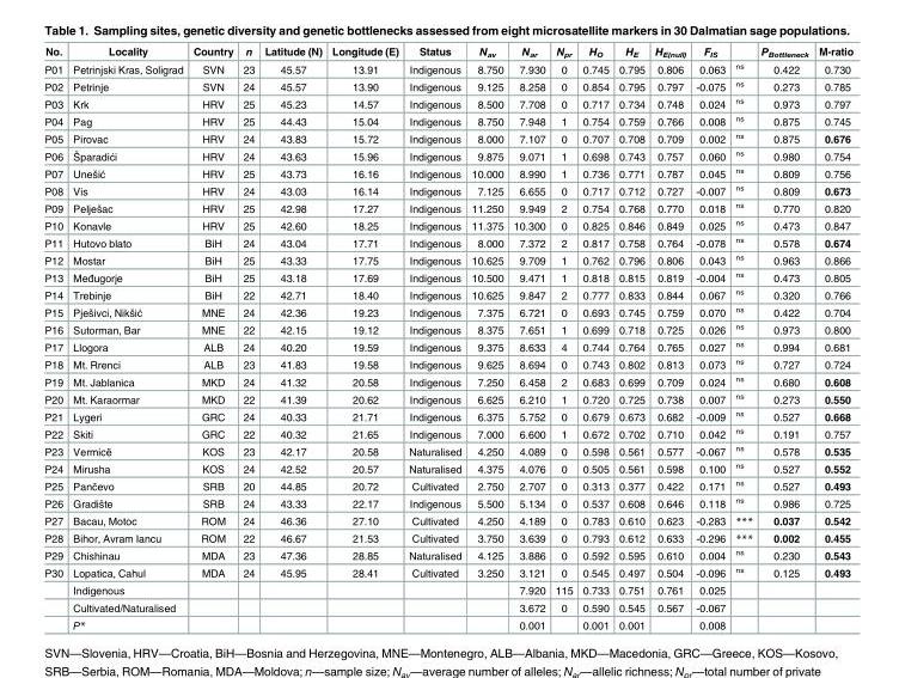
<table><thead><tr><td>No.</td><td>Locality</td><td>Country</td><td>n</td><td>Latitude (N)</td><td>Longitude (E)</td><td>Status</td><td>N<sub>av</sub></td><td>N<sub>ar</sub></td><td>N<sub>pr</sub></td><td>H<sub>O</sub></td><td>H<sub>E</sub></td><td>H<sub>E(null)</sub></td><td>F<sub>IS</sub></td><td></td><td>P<sub>Bottleneck</sub></td><td>M-ratio</td></tr></thead><tbody><tr><td>P01</td><td>Petrinjski Kras, Soligrad</td><td>SVN</td><td>23</td><td>45.57</td><td>13.91</td><td>Indigenous</td><td>8.750</td><td>7.930</td><td>0</td><td>0.745</td><td>0.795</td><td>0.806</td><td>0.063</td><td><sup>ns</sup></td><td>0.422</td><td>0.730</td></tr><tr><td>P02</td><td>Petrinje</td><td>SVN</td><td>24</td><td>45.57</td><td>13.90</td><td>Indigenous</td><td>9.125</td><td>8.258</td><td>0</td><td>0.854</td><td>0.795</td><td>0.797</td><td>-0.075</td><td><sup>ns</sup></td><td>0.273</td><td>0.785</td></tr><tr><td>P03</td><td>Krk</td><td>HRV</td><td>25</td><td>45.23</td><td>14.57</td><td>Indigenous</td><td>8.500</td><td>7.708</td><td>0</td><td>0.717</td><td>0.734</td><td>0.748</td><td>0.024</td><td><sup>ns</sup></td><td>0.973</td><td>0.797</td></tr><tr><td>P04</td><td>Pag</td><td>HRV</td><td>25</td><td>44.43</td><td>15.04</td><td>Indigenous</td><td>8.750</td><td>7.948</td><td>1</td><td>0.754</td><td>0.759</td><td>0.766</td><td>0.008</td><td><sup>ns</sup></td><td>0.875</td><td>0.745</td></tr><tr><td>P05</td><td>Pirovac</td><td>HRV</td><td>24</td><td>43.83</td><td>15.72</td><td>Indigenous</td><td>8.000</td><td>7.107</td><td>0</td><td>0.707</td><td>0.708</td><td>0.709</td><td>0.002</td><td><sup>ns</sup></td><td>0.875</td><td>0.676</td></tr><tr><td>P06</td><td>Šparadići</td><td>HRV</td><td>24</td><td>43.63</td><td>15.96</td><td>Indigenous</td><td>9.875</td><td>9.071</td><td>1</td><td>0.698</td><td>0.743</td><td>0.757</td><td>0.060</td><td><sup>ns</sup></td><td>0.980</td><td>0.754</td></tr><tr><td>P07</td><td>Unešić</td><td>HRV</td><td>25</td><td>43.73</td><td>16.16</td><td>Indigenous</td><td>10.000</td><td>8.990</td><td>1</td><td>0.736</td><td>0.771</td><td>0.787</td><td>0.045</td><td><sup>ns</sup></td><td>0.809</td><td>0.756</td></tr><tr><td>P08</td><td>Vis</td><td>HRV</td><td>24</td><td>43.03</td><td>16.14</td><td>Indigenous</td><td>7.125</td><td>6.655</td><td>0</td><td>0.717</td><td>0.712</td><td>0.727</td><td>-0.007</td><td><sup>ns</sup></td><td>0.809</td><td>0.673</td></tr><tr><td>P09</td><td>Pelješac</td><td>HRV</td><td>25</td><td>42.98</td><td>17.27</td><td>Indigenous</td><td>11.250</td><td>9.949</td><td>2</td><td>0.754</td><td>0.768</td><td>0.770</td><td>0.018</td><td><sup>ns</sup></td><td>0.770</td><td>0.820</td></tr><tr><td>P10</td><td>Konavle</td><td>HRV</td><td>25</td><td>42.60</td><td>18.25</td><td>Indigenous</td><td>11.375</td><td>10.300</td><td>0</td><td>0.825</td><td>0.846</td><td>0.849</td><td>0.025</td><td><sup>ns</sup></td><td>0.473</td><td>0.847</td></tr><tr><td>P11</td><td>Hutovo blato</td><td>BiH</td><td>24</td><td>43.04</td><td>17.71</td><td>Indigenous</td><td>8.000</td><td>7.372</td><td>2</td><td>0.817</td><td>0.758</td><td>0.764</td><td>-0.078</td><td><sup>ns</sup></td><td>0.578</td><td>0.674</td></tr><tr><td>P12</td><td>Mostar</td><td>BiH</td><td>25</td><td>43.33</td><td>17.75</td><td>Indigenous</td><td>10.625</td><td>9.709</td><td>1</td><td>0.762</td><td>0.796</td><td>0.806</td><td>0.043</td><td><sup>ns</sup></td><td>0.963</td><td>0.866</td></tr><tr><td>P13</td><td>Međugorje</td><td>BiH</td><td>25</td><td>43.18</td><td>17.69</td><td>Indigenous</td><td>10.500</td><td>9.471</td><td>1</td><td>0.818</td><td>0.815</td><td>0.819</td><td>-0.004</td><td><sup>ns</sup></td><td>0.473</td><td>0.805</td></tr><tr><td>P14</td><td>Trebinje</td><td>BiH</td><td>22</td><td>42.71</td><td>18.40</td><td>Indigenous</td><td>10.625</td><td>9.847</td><td>2</td><td>0.777</td><td>0.833</td><td>0.844</td><td>0.067</td><td><sup>ns</sup></td><td>0.320</td><td>0.766</td></tr><tr><td>P15</td><td>Pješivci, Nikšić</td><td>MNE</td><td>24</td><td>42.36</td><td>19.23</td><td>Indigenous</td><td>7.375</td><td>6.721</td><td>0</td><td>0.693</td><td>0.745</td><td>0.759</td><td>0.070</td><td><sup>ns</sup></td><td>0.422</td><td>0.704</td></tr><tr><td>P16</td><td>Sutorman, Bar</td><td>MNE</td><td>22</td><td>42.15</td><td>19.12</td><td>Indigenous</td><td>8.375</td><td>7.651</td><td>1</td><td>0.699</td><td>0.718</td><td>0.725</td><td>0.026</td><td><sup>ns</sup></td><td>0.973</td><td>0.800</td></tr><tr><td>P17</td><td>Llogora</td><td>ALB</td><td>24</td><td>40.20</td><td>19.59</td><td>Indigenous</td><td>9.375</td><td>8.633</td><td>4</td><td>0.744</td><td>0.764</td><td>0.765</td><td>0.027</td><td><sup>ns</sup></td><td>0.994</td><td>0.681</td></tr><tr><td>P18</td><td>Mt. Rrenci</td><td>ALB</td><td>23</td><td>41.83</td><td>19.58</td><td>Indigenous</td><td>9.625</td><td>8.694</td><td>0</td><td>0.743</td><td>0.802</td><td>0.813</td><td>0.073</td><td><sup>ns</sup></td><td>0.727</td><td>0.724</td></tr><tr><td>P19</td><td>Mt. Jablanica</td><td>MKD</td><td>24</td><td>41.32</td><td>20.58</td><td>Indigenous</td><td>7.250</td><td>6.458</td><td>2</td><td>0.683</td><td>0.699</td><td>0.709</td><td>0.024</td><td><sup>ns</sup></td><td>0.680</td><td>0.608</td></tr><tr><td>P20</td><td>Mt. Karaormar</td><td>MKD</td><td>22</td><td>41.39</td><td>20.62</td><td>Indigenous</td><td>6.625</td><td>6.210</td><td>1</td><td>0.720</td><td>0.725</td><td>0.738</td><td>0.007</td><td><sup>ns</sup></td><td>0.273</td><td>0.550</td></tr><tr><td>P21</td><td>Lygeri</td><td>GRC</td><td>24</td><td>40.33</td><td>21.71</td><td>Indigenous</td><td>6.375</td><td>5.752</td><td>0</td><td>0.679</td><td>0.673</td><td>0.682</td><td>-0.009</td><td><sup>ns</sup></td><td>0.527</td><td>0.668</td></tr><tr><td>P22</td><td>Skiti</td><td>GRC</td><td>22</td><td>40.32</td><td>21.65</td><td>Indigenous</td><td>7.000</td><td>6.600</td><td>1</td><td>0.672</td><td>0.702</td><td>0.710</td><td>0.042</td><td><sup>ns</sup></td><td>0.191</td><td>0.757</td></tr><tr><td>P23</td><td>Vermicë</td><td>KOS</td><td>23</td><td>42.17</td><td>20.58</td><td>Naturalised</td><td>4.250</td><td>4.089</td><td>0</td><td>0.598</td><td>0.561</td><td>0.577</td><td>-0.067</td><td><sup>ns</sup></td><td>0.578</td><td>0.535</td></tr><tr><td>P24</td><td>Mirusha</td><td>KOS</td><td>24</td><td>42.52</td><td>20.57</td><td>Naturalised</td><td>4.375</td><td>4.076</td><td>0</td><td>0.505</td><td>0.561</td><td>0.598</td><td>0.100</td><td><sup>ns</sup></td><td>0.527</td><td>0.552</td></tr><tr><td>P25</td><td>Pančevo</td><td>SRB</td><td>20</td><td>44.85</td><td>20.72</td><td>Cultivated</td><td>2.750</td><td>2.707</td><td>0</td><td>0.313</td><td>0.377</td><td>0.422</td><td>0.171</td><td><sup>ns</sup></td><td>0.527</td><td>0.493</td></tr><tr><td>P26</td><td>Gradište</td><td>SRB</td><td>24</td><td>43.33</td><td>22.17</td><td>Indigenous</td><td>5.500</td><td>5.134</td><td>0</td><td>0.537</td><td>0.608</td><td>0.646</td><td>0.118</td><td><sup>ns</sup></td><td>0.986</td><td>0.725</td></tr><tr><td>P27</td><td>Bacau, Motoc</td><td>ROM</td><td>24</td><td>46.36</td><td>27.10</td><td>Cultivated</td><td>4.250</td><td>4.189</td><td>0</td><td>0.783</td><td>0.610</td><td>0.623</td><td>-0.283</td><td>***</td><td>0.037</td><td>0.542</td></tr><tr><td>P28</td><td>Bihor, Avram Iancu</td><td>ROM</td><td>22</td><td>46.67</td><td>21.53</td><td>Cultivated</td><td>3.750</td><td>3.639</td><td>0</td><td>0.793</td><td>0.612</td><td>0.633</td><td>-0.296</td><td>***</td><td>0.002</td><td>0.455</td></tr><tr><td>P29</td><td>Chishinau</td><td>MDA</td><td>23</td><td>47.36</td><td>28.85</td><td>Naturalised</td><td>4.125</td><td>3.886</td><td>0</td><td>0.592</td><td>0.595</td><td>0.610</td><td>0.004</td><td><sup>ns</sup></td><td>0.230</td><td>0.543</td></tr><tr><td rowspan="4">P30</td><td>Lopatica, Cahul</td><td>MDA</td><td>24</td><td>45.95</td><td>28.41</td><td>Cultivated</td><td>3.250</td><td>3.121</td><td>0</td><td>0.545</td><td>0.497</td><td>0.504</td><td>-0.096</td><td><sup>ns</sup></td><td>0.125</td><td>0.493</td></tr><tr><td>Indigenous</td><td></td><td></td><td></td><td></td><td></td><td></td><td>7.920</td><td>115</td><td>0.733</td><td>0.751</td><td>0.761</td><td>0.025</td><td></td><td></td><td></td></tr><tr><td>Cultivated/Naturalised</td><td></td><td></td><td></td><td></td><td></td><td></td><td>3.672</td><td>0</td><td>0.590</td><td>0.545</td><td>0.567</td><td>-0.067</td><td></td><td></td><td></td></tr><tr><td>P*</td><td></td><td></td><td></td><td></td><td></td><td></td><td>0.001</td><td></td><td>0.001</td><td>0.001</td><td></td><td>0.008</td><td></td><td></td><td></td></tr></tbody></table>